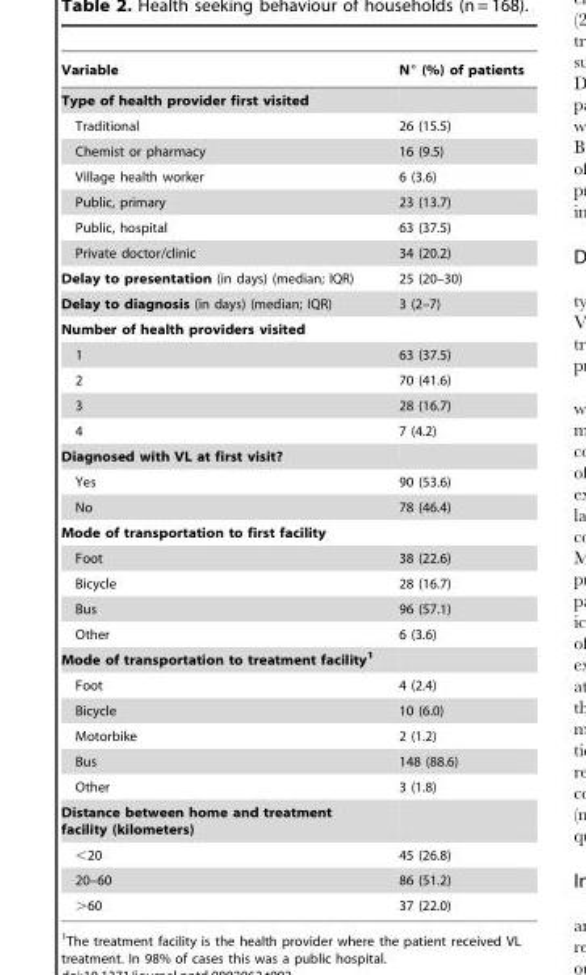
<table><thead><tr><td>Variable</td><td>N° (%) of patients</td></tr></thead><tbody><tr><td colspan="2">Type of health provider first visited</td></tr><tr><td>Traditional</td><td>26 (15.5)</td></tr><tr><td>Chemist or pharmacy</td><td>16 (9.5)</td></tr><tr><td>Village health worker</td><td>6 (3.6)</td></tr><tr><td>Public, primary</td><td>23 (13.7)</td></tr><tr><td>Public, hospital</td><td>63 (37.5)</td></tr><tr><td>Private doctor/clinic</td><td>34 (20.2)</td></tr><tr><td>Delay to presentation (in days) (median; IQR)</td><td>25 (20–30)</td></tr><tr><td>Delay to diagnosis (in days) (median; IQR)</td><td>3 (2–7)</td></tr><tr><td colspan="2">Number of health providers visited</td></tr><tr><td>1</td><td>63 (37.5)</td></tr><tr><td>2</td><td>70 (41.6)</td></tr><tr><td>3</td><td>28 (16.7)</td></tr><tr><td>4</td><td>7 (4.2)</td></tr><tr><td colspan="2">Diagnosed with VL at first visit?</td></tr><tr><td>Yes</td><td>90 (53.6)</td></tr><tr><td>No</td><td>78 (46.4)</td></tr><tr><td colspan="2">Mode of transportation to first facility</td></tr><tr><td>Foot</td><td>38 (22.6)</td></tr><tr><td>Bicycle</td><td>28 (16.7)</td></tr><tr><td>Bus</td><td>96 (57.1)</td></tr><tr><td>Other</td><td>6 (3.6)</td></tr><tr><td colspan="2">Mode of transportation to treatment facility1</td></tr><tr><td>Foot</td><td>4 (2.4)</td></tr><tr><td>Bicycle</td><td>10 (6.0)</td></tr><tr><td>Motorbike</td><td>2 (1.2)</td></tr><tr><td>Bus</td><td>148 (88.6)</td></tr><tr><td>Other</td><td>3 (1.8)</td></tr><tr><td colspan="2">Distance between home and treatment facility (kilometers)</td></tr><tr><td>&lt;20</td><td>45 (26.8)</td></tr><tr><td>20–60</td><td>86 (51.2)</td></tr><tr><td>&gt;60</td><td>37 (22.0)</td></tr></tbody></table>